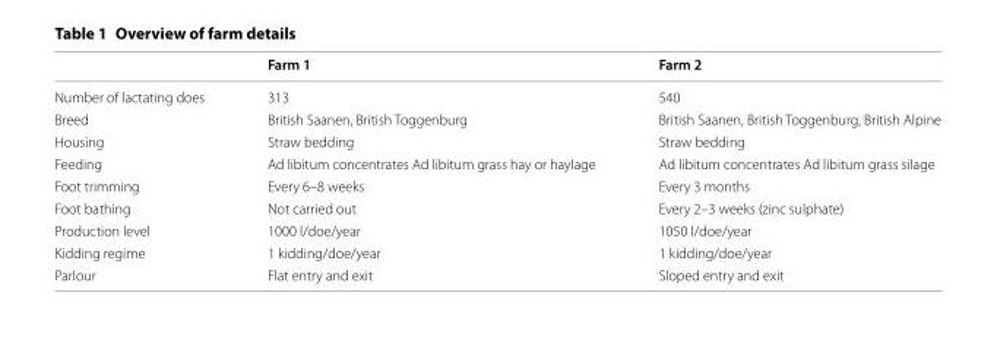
<table><thead><tr><td></td><td>Farm 1</td><td>Farm 2</td></tr></thead><tbody><tr><td>Number of lactating does</td><td>313</td><td>540</td></tr><tr><td>Breed</td><td>British Saanen, British Toggenburg</td><td>British Saanen, British Toggenburg, British Alpine</td></tr><tr><td>Housing</td><td>Straw bedding</td><td>Straw bedding</td></tr><tr><td>Feeding</td><td>Ad libitum concentrates Ad libitum grass hay or haylage</td><td>Ad libitum concentrates Ad libitum grass silage</td></tr><tr><td>Foot trimming</td><td>Every 6–8 weeks</td><td>Every 3 months</td></tr><tr><td>Foot bathing</td><td>Not carried out</td><td>Every 2–3 weeks (zinc sulphate)</td></tr><tr><td>Production level</td><td>1000 l/doe/year</td><td>1050 l/doe/year</td></tr><tr><td>Kidding regime</td><td>1 kidding/doe/year</td><td>1 kidding/doe/year</td></tr><tr><td>Parlour</td><td>Flat entry and exit</td><td>Sloped entry and exit</td></tr></tbody></table>